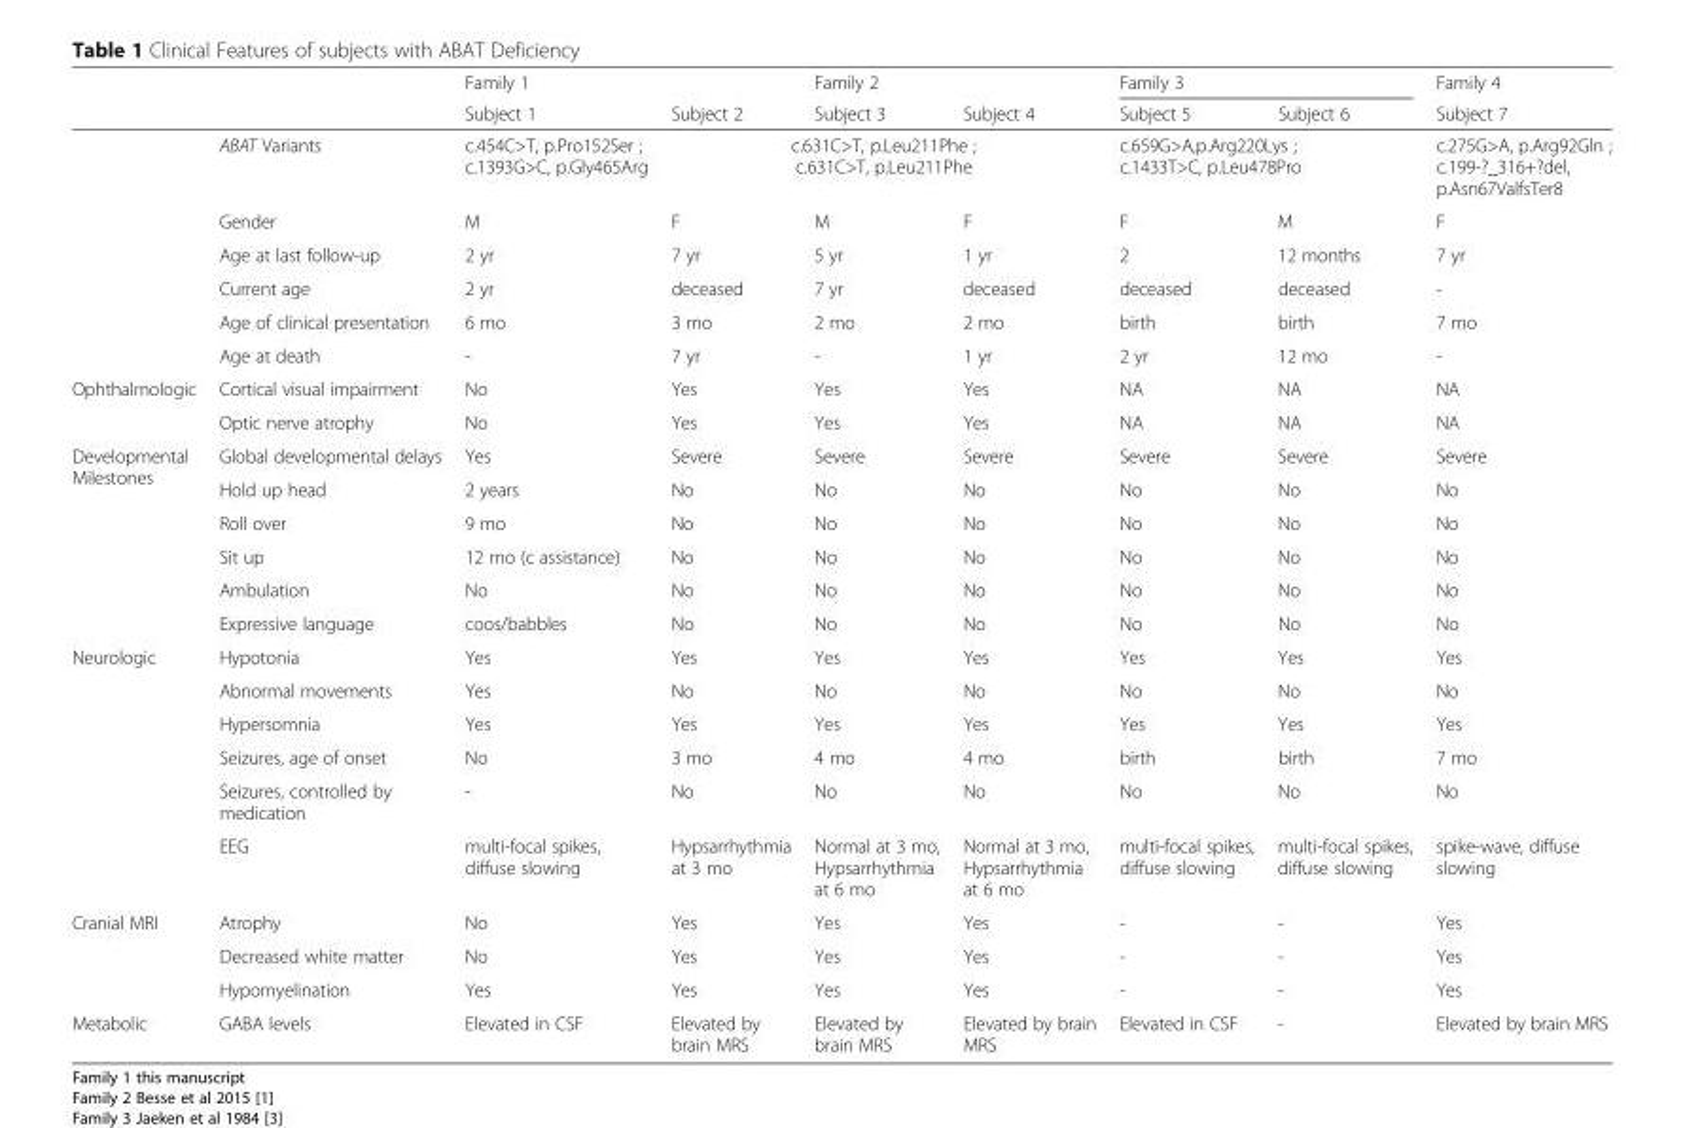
<table><thead><tr><td rowspan="2"></td><td rowspan="2"></td><td rowspan="2">Family 1 Subject 1</td><td rowspan="2">Subject 2</td><td rowspan="2">Family 2 Subject 3</td><td rowspan="2">Subject 4</td><td colspan="2">Family 3</td><td rowspan="2">Family 4 Subject 7</td></tr><tr><td>Subject 5</td><td>Subject 6</td></tr></thead><tbody><tr><td rowspan="6"></td><td>ABAT Variants</td><td>c.454C&gt;T, p.Pro152Ser ; c.1393G&gt;C, p.Gly465Arg</td><td colspan="3">c.631C&gt;T, p.Leu211Phe ; c.631C&gt;T, p.Leu211Phe</td><td colspan="2">c.659G&gt;A,p.Arg220Lys ; c.1433T&gt;C, p.Leu478Pro</td><td>c.275G&gt;A, p.Arg92Gln ; c.199-?_316+?del, p.Asn67ValfsTer8</td></tr><tr><td>Gender</td><td>M</td><td>F</td><td>M</td><td>F</td><td>F</td><td>M</td><td>F</td></tr><tr><td>Age at last follow-up</td><td>2 yr</td><td>7 yr</td><td>5 yr</td><td>1 yr</td><td>2</td><td>12 months</td><td>7 yr</td></tr><tr><td>Current age</td><td>2 yr</td><td>deceased</td><td>7 yr</td><td>deceased</td><td>deceased</td><td>deceased</td><td>-</td></tr><tr><td>Age of clinical presentation</td><td>6 mo</td><td>3 mo</td><td>2 mo</td><td>2 mo</td><td>birth</td><td>birth</td><td>7 mo</td></tr><tr><td>Age at death</td><td>-</td><td>7 yr</td><td>-</td><td>1 yr</td><td>2 yr</td><td>12 mo</td><td>-</td></tr><tr><td rowspan="2">Ophthalmologic</td><td>Cortical visual impairment</td><td>No</td><td>Yes</td><td>Yes</td><td>Yes</td><td>NA</td><td>NA</td><td>NA</td></tr><tr><td>Optic nerve atrophy</td><td>No</td><td>Yes</td><td>Yes</td><td>Yes</td><td>NA</td><td>NA</td><td>NA</td></tr><tr><td rowspan="6">Developmental Milestones</td><td>Global developmental delays</td><td>Yes</td><td>Severe</td><td>Severe</td><td>Severe</td><td>Severe</td><td>Severe</td><td>Severe</td></tr><tr><td>Hold up head</td><td>2 years</td><td>No</td><td>No</td><td>No</td><td>No</td><td>No</td><td>No</td></tr><tr><td>Roll over</td><td>9 mo</td><td>No</td><td>No</td><td>No</td><td>No</td><td>No</td><td>No</td></tr><tr><td>Sit up</td><td>12 mo (c assistance)</td><td>No</td><td>No</td><td>No</td><td>No</td><td>No</td><td>No</td></tr><tr><td>Ambulation</td><td>No</td><td>No</td><td>No</td><td>No</td><td>No</td><td>No</td><td>No</td></tr><tr><td>Expressive language</td><td>coos/babbles</td><td>No</td><td>No</td><td>No</td><td>No</td><td>No</td><td>No</td></tr><tr><td rowspan="6">Neurologic</td><td>Hypotonia</td><td>Yes</td><td>Yes</td><td>Yes</td><td>Yes</td><td>Yes</td><td>Yes</td><td>Yes</td></tr><tr><td>Abnormal movements</td><td>Yes</td><td>No</td><td>No</td><td>No</td><td>No</td><td>No</td><td>No</td></tr><tr><td>Hypersomnia</td><td>Yes</td><td>Yes</td><td>Yes</td><td>Yes</td><td>Yes</td><td>Yes</td><td>Yes</td></tr><tr><td>Seizures, age of onset</td><td>No</td><td>3 mo</td><td>4 mo</td><td>4 mo</td><td>birth</td><td>birth</td><td>7 mo</td></tr><tr><td>Seizures, controlled by medication</td><td>-</td><td>No</td><td>No</td><td>No</td><td>No</td><td>No</td><td>No</td></tr><tr><td>EEG</td><td>multi-focal spikes, diffuse slowing</td><td>Hypsarrhythmia at 3 mo</td><td>Normal at 3 mo, Hypsarrhythmia at 6 mo</td><td>Normal at 3 mo, Hypsarrhythmia at 6 mo</td><td>multi-focal spikes, diffuse slowing</td><td>multi-focal spikes, diffuse slowing</td><td>spike-wave, diffuse slowing</td></tr><tr><td rowspan="3">Cranial MRI</td><td>Atrophy</td><td>No</td><td>Yes</td><td>Yes</td><td>Yes</td><td>-</td><td>-</td><td>Yes</td></tr><tr><td>Decreased white matter</td><td>No</td><td>Yes</td><td>Yes</td><td>Yes</td><td>-</td><td>-</td><td>Yes</td></tr><tr><td>Hypomyelination</td><td>Yes</td><td>Yes</td><td>Yes</td><td>Yes</td><td>-</td><td>-</td><td>Yes</td></tr><tr><td>Metabolic</td><td>GABA levels</td><td>Elevated in CSF</td><td>Elevated by brain MRS</td><td>Elevated by brain MRS</td><td>Elevated by brain MRS</td><td>Elevated in CSF</td><td>-</td><td>Elevated by brain MRS</td></tr></tbody></table>